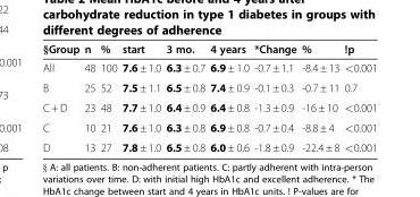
<table><thead><tr><td>§Group</td><td>n</td><td>%</td><td>start</td><td>3 mo.</td><td>4 years</td><td>*Change</td><td>%</td><td>!p</td></tr></thead><tbody><tr><td>All</td><td>48</td><td>100</td><td>7.6 ± 1.0</td><td>6.3 ± 0.7</td><td>6.9 ± 1.0</td><td>-0.7 ± 1.1</td><td>-8.4 ± 13</td><td>&lt;0.001</td></tr><tr><td>B</td><td>25</td><td>52</td><td>7.5 ± 1.1</td><td>6.5 ± 0.8</td><td>7.4 ± 0.9</td><td>-0.1 ± 0.3</td><td>-0.7 ± 11</td><td>0.7</td></tr><tr><td>C + D</td><td>23</td><td>48</td><td>7.7 ± 1.0</td><td>6.4 ± 0.9</td><td>6.4 ± 0.8</td><td>-1.3 ± 0.9</td><td>-16 ± 10</td><td>&lt;0.001</td></tr><tr><td>C</td><td>10</td><td>21</td><td>7.6 ± 1.0</td><td>6.3 ± 0.8</td><td>6.9 ± 0.8</td><td>-0.7 ± 0.4</td><td>-8.8 ± 4</td><td>&lt;0.001</td></tr><tr><td>D</td><td>13</td><td>27</td><td>7.8 ± 1.0</td><td>6.5 ± 0.8</td><td>6.0 ± 0.6</td><td>-1.8 ± 0.9</td><td>-22.4 ± 8</td><td>&lt;0.001</td></tr></tbody></table>